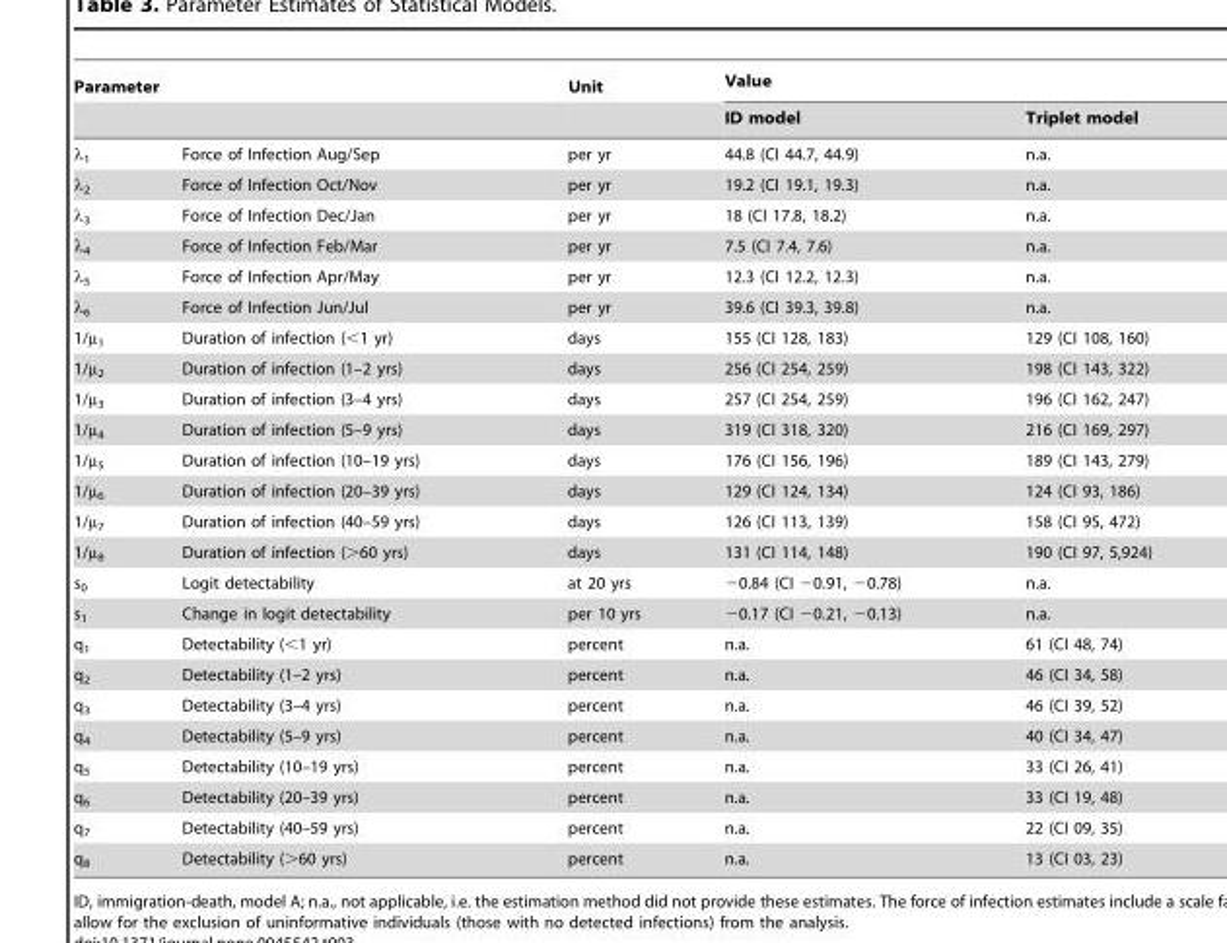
<table><thead><tr><td colspan="2">Parameter</td><td rowspan="2">Unit</td><td colspan="2">Value</td></tr><tr><td></td><td></td><td>ID model</td><td>Triplet model</td></tr></thead><tbody><tr><td>λ<sub>1</sub></td><td>Force of Infection Aug/Sep</td><td>per yr</td><td>44.8 (CI 44.7, 44.9)</td><td>n.a.</td></tr><tr><td>λ<sub>2</sub></td><td>Force of Infection Oct/Nov</td><td>per yr</td><td>19.2 (CI 19.1, 19.3)</td><td>n.a.</td></tr><tr><td>λ<sub>3</sub></td><td>Force of Infection Dec/Jan</td><td>per yr</td><td>18 (CI 17.8, 18.2)</td><td>n.a.</td></tr><tr><td>λ<sub>4</sub></td><td>Force of Infection Feb/Mar</td><td>per yr</td><td>7.5 (CI 7.4, 7.6)</td><td>n.a.</td></tr><tr><td>λ<sub>5</sub></td><td>Force of Infection Apr/May</td><td>per yr</td><td>12.3 (CI 12.2, 12.3)</td><td>n.a.</td></tr><tr><td>λ<sub>6</sub></td><td>Force of Infection Jun/Jul</td><td>per yr</td><td>39.6 (CI 39.3, 39.8)</td><td>n.a.</td></tr><tr><td>1/µ<sub>1</sub></td><td>Duration of infection (&lt;1 yr)</td><td>days</td><td>155 (CI 128, 183)</td><td>129 (CI 108, 160)</td></tr><tr><td>1/µ<sub>2</sub></td><td>Duration of infection (1–2 yrs)</td><td>days</td><td>256 (CI 254, 259)</td><td>198 (CI 143, 322)</td></tr><tr><td>1/µ<sub>3</sub></td><td>Duration of infection (3–4 yrs)</td><td>days</td><td>257 (CI 254, 259)</td><td>196 (CI 162, 247)</td></tr><tr><td>1/µ<sub>4</sub></td><td>Duration of infection (5–9 yrs)</td><td>days</td><td>319 (CI 318, 320)</td><td>216 (CI 169, 297)</td></tr><tr><td>1/µ<sub>5</sub></td><td>Duration of infection (10–19 yrs)</td><td>days</td><td>176 (CI 156, 196)</td><td>189 (CI 143, 279)</td></tr><tr><td>1/µ<sub>6</sub></td><td>Duration of infection (20–39 yrs)</td><td>days</td><td>129 (CI 124, 134)</td><td>124 (CI 93, 186)</td></tr><tr><td>1/µ<sub>7</sub></td><td>Duration of infection (40–59 yrs)</td><td>days</td><td>126 (CI 113, 139)</td><td>158 (CI 95, 472)</td></tr><tr><td>1/µ<sub>8</sub></td><td>Duration of infection (&gt;60 yrs)</td><td>days</td><td>131 (CI 114, 148)</td><td>190 (CI 97, 5,924)</td></tr><tr><td>s<sub>0</sub></td><td>Logit detectability</td><td>at 20 yrs</td><td>−0.84 (CI −0.91, −0.78)</td><td>n.a.</td></tr><tr><td>s<sub>1</sub></td><td>Change in logit detectability</td><td>per 10 yrs</td><td>−0.17 (CI −0.21, −0.13)</td><td>n.a.</td></tr><tr><td>q<sub>1</sub></td><td>Detectability (&lt;1 yr)</td><td>percent</td><td>n.a.</td><td>61 (CI 48, 74)</td></tr><tr><td>q<sub>2</sub></td><td>Detectability (1–2 yrs)</td><td>percent</td><td>n.a.</td><td>46 (CI 34, 58)</td></tr><tr><td>q<sub>3</sub></td><td>Detectability (3–4 yrs)</td><td>percent</td><td>n.a.</td><td>46 (CI 39, 52)</td></tr><tr><td>q<sub>4</sub></td><td>Detectability (5–9 yrs)</td><td>percent</td><td>n.a.</td><td>40 (CI 34, 47)</td></tr><tr><td>q<sub>5</sub></td><td>Detectability (10–19 yrs)</td><td>percent</td><td>n.a.</td><td>33 (CI 26, 41)</td></tr><tr><td>q<sub>6</sub></td><td>Detectability (20–39 yrs)</td><td>percent</td><td>n.a.</td><td>33 (CI 19, 48)</td></tr><tr><td>q<sub>7</sub></td><td>Detectability (40–59 yrs)</td><td>percent</td><td>n.a.</td><td>22 (CI 09, 35)</td></tr><tr><td>q<sub>8</sub></td><td>Detectability (&gt;60 yrs)</td><td>percent</td><td>n.a.</td><td>13 (CI 03, 23)</td></tr></tbody></table>